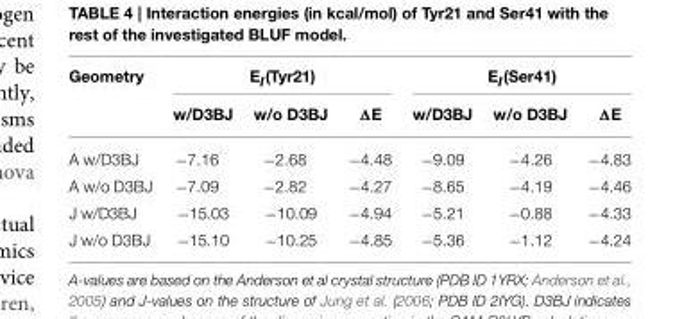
<table><thead><tr><td rowspan="2">Geometry</td><td colspan="3">EI(Tyr21)</td><td colspan="3">EI(Ser41)</td></tr><tr><td>w/D3BJ</td><td>w/o D3BJ</td><td>ΔE</td><td>w/D3BJ</td><td>w/o D3BJ</td><td>ΔE</td></tr></thead><tbody><tr><td>A w/D3BJ</td><td>−7.16</td><td>−2.68</td><td>−4.48</td><td>−9.09</td><td>−4.26</td><td>−4.83</td></tr><tr><td>A w/o D3BJ</td><td>−7.09</td><td>−2.82</td><td>−4.27</td><td>−8.65</td><td>−4.19</td><td>−4.46</td></tr><tr><td>J w/D3BJ</td><td>−15.03</td><td>−10.09</td><td>−4.94</td><td>−5.21</td><td>−0.88</td><td>−4.33</td></tr><tr><td>J w/o D3BJ</td><td>−15.10</td><td>−10.25</td><td>−4.85</td><td>−5.36</td><td>−1.12</td><td>−4.24</td></tr></tbody></table>